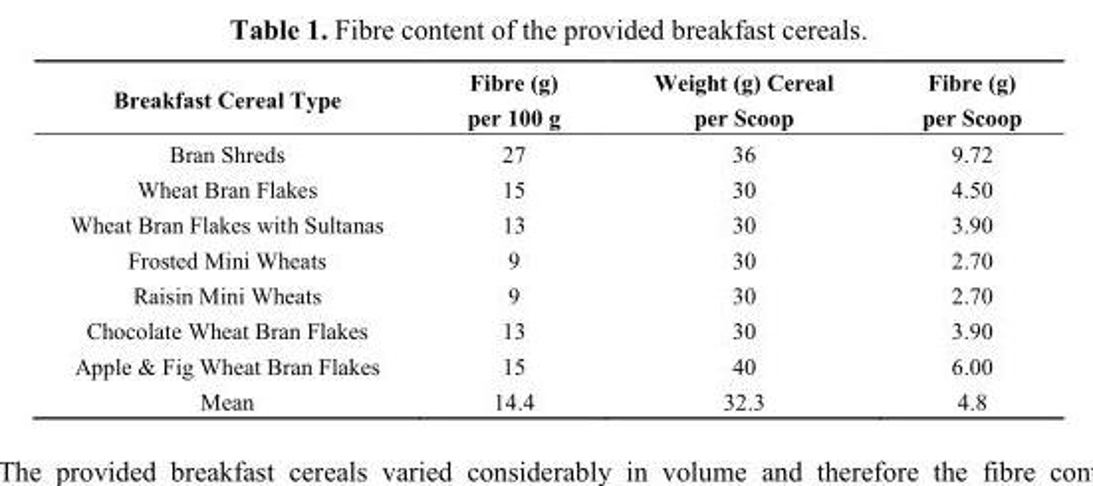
<table><thead><tr><td>Breakfast Cereal Type</td><td>Fibre (g) per 100 g</td><td>Weight (g) Cereal per Scoop</td><td>Fibre (g) per Scoop</td></tr></thead><tbody><tr><td>Bran Shreds</td><td>27</td><td>36</td><td>9.72</td></tr><tr><td>Wheat Bran Flakes</td><td>15</td><td>30</td><td>4.50</td></tr><tr><td>Wheat Bran Flakes with Sultanas</td><td>13</td><td>30</td><td>3.90</td></tr><tr><td>Frosted Mini Wheats</td><td>9</td><td>30</td><td>2.70</td></tr><tr><td>Raisin Mini Wheats</td><td>9</td><td>30</td><td>2.70</td></tr><tr><td>Chocolate Wheat Bran Flakes</td><td>13</td><td>30</td><td>3.90</td></tr><tr><td>Apple &amp; Fig Wheat Bran Flakes</td><td>15</td><td>40</td><td>6.00</td></tr><tr><td>Mean</td><td>14.4</td><td>32.3</td><td>4.8</td></tr></tbody></table>